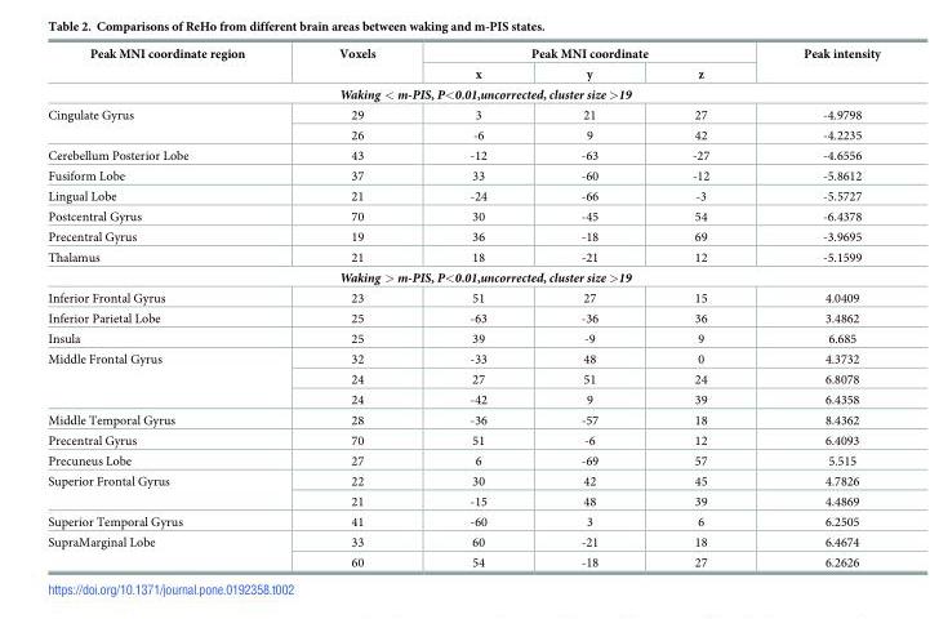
<table><thead><tr><td rowspan="2">Peak MNI coordinate region</td><td rowspan="2">Voxels</td><td colspan="3">Peak MNI coordinate</td><td rowspan="2">Peak intensity</td></tr><tr><td>x</td><td>y</td><td>z</td></tr></thead><tbody><tr><td colspan="6">Waking &lt; m-PIS, P&lt;0.01,uncorrected, cluster size &gt;19</td></tr><tr><td rowspan="2">Cingulate Gyrus</td><td>29</td><td>3</td><td>21</td><td>27</td><td>-4.9798</td></tr><tr><td>26</td><td>-6</td><td>9</td><td>42</td><td>-4.2235</td></tr><tr><td>Cerebellum Posterior Lobe</td><td>43</td><td>-12</td><td>-63</td><td>-27</td><td>-4.6556</td></tr><tr><td>Fusiform Lobe</td><td>37</td><td>33</td><td>-60</td><td>-12</td><td>-5.8612</td></tr><tr><td>Lingual Lobe</td><td>21</td><td>-24</td><td>-66</td><td>-3</td><td>-5.5727</td></tr><tr><td>Postcentral Gyrus</td><td>70</td><td>30</td><td>-45</td><td>54</td><td>-6.4378</td></tr><tr><td>Precentral Gyrus</td><td>19</td><td>36</td><td>-18</td><td>69</td><td>-3.9695</td></tr><tr><td>Thalamus</td><td>21</td><td>18</td><td>-21</td><td>12</td><td>-5.1599</td></tr><tr><td colspan="6">Waking &gt; m-PIS, P&lt;0.01,uncorrected, cluster size &gt;19</td></tr><tr><td>Inferior Frontal Gyrus</td><td>23</td><td>51</td><td>27</td><td>15</td><td>4.0409</td></tr><tr><td>Inferior Parietal Lobe</td><td>25</td><td>-63</td><td>-36</td><td>36</td><td>3.4862</td></tr><tr><td>Insula</td><td>25</td><td>39</td><td>-9</td><td>9</td><td>6.685</td></tr><tr><td rowspan="3">Middle Frontal Gyrus</td><td>32</td><td>-33</td><td>48</td><td>0</td><td>4.3732</td></tr><tr><td>24</td><td>27</td><td>51</td><td>24</td><td>6.8078</td></tr><tr><td>24</td><td>-42</td><td>9</td><td>39</td><td>6.4358</td></tr><tr><td>Middle Temporal Gyrus</td><td>28</td><td>-36</td><td>-57</td><td>18</td><td>8.4362</td></tr><tr><td>Precentral Gyrus</td><td>70</td><td>51</td><td>-6</td><td>12</td><td>6.4093</td></tr><tr><td>Precuneus Lobe</td><td>27</td><td>6</td><td>-69</td><td>57</td><td>5.515</td></tr><tr><td rowspan="2">Superior Frontal Gyrus</td><td>22</td><td>30</td><td>42</td><td>45</td><td>4.7826</td></tr><tr><td>21</td><td>-15</td><td>48</td><td>39</td><td>4.4869</td></tr><tr><td>Superior Temporal Gyrus</td><td>41</td><td>-60</td><td>3</td><td>6</td><td>6.2505</td></tr><tr><td rowspan="2">SupraMarginal Lobe</td><td>33</td><td>60</td><td>-21</td><td>18</td><td>6.4674</td></tr><tr><td>60</td><td>54</td><td>-18</td><td>27</td><td>6.2626</td></tr></tbody></table>